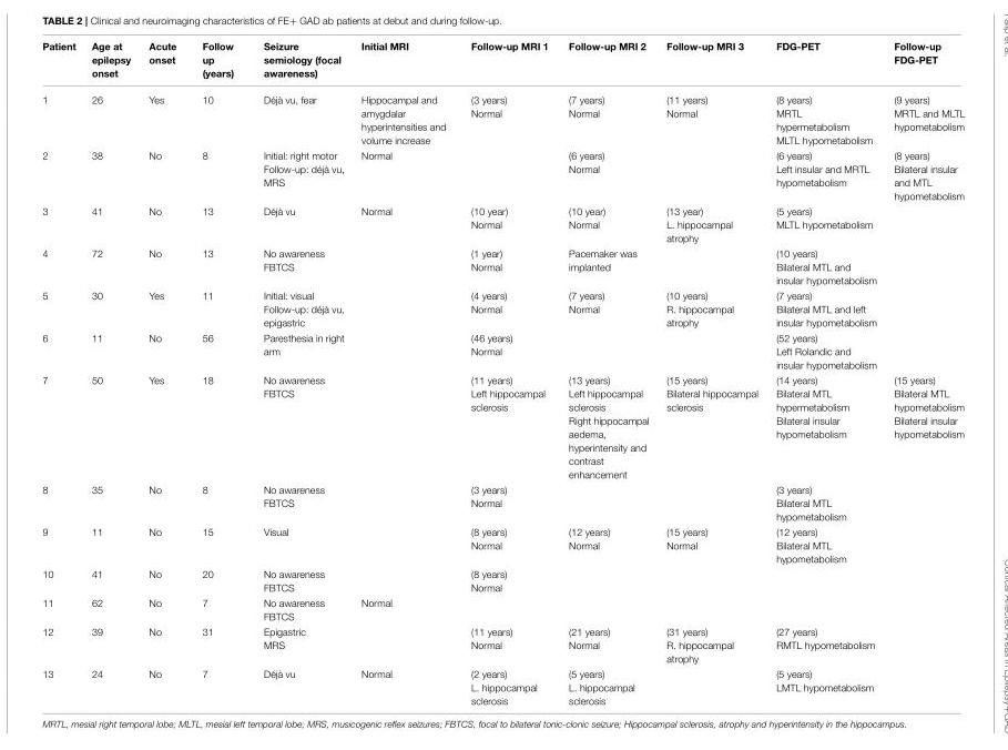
<table><thead><tr><td>Patient</td><td>Age at epilepsy onset</td><td>Acute onset</td><td>Follow up (years)</td><td>Seizure semiology (focal awareness)</td><td>Initial MRI</td><td>Follow-up MRI 1</td><td>Follow-up MRI 2</td><td>Follow-up MRI 3</td><td>FDG-PET</td><td>Follow-up FDG-PET</td></tr></thead><tbody><tr><td>1</td><td>26</td><td>Yes</td><td>10</td><td>Déjà vu, fear</td><td>Hippocampal and amygdalar hyperintensities and volume increase</td><td>(3 years) Normal</td><td>(7 years) Normal</td><td>(11 years) Normal</td><td>(8 years) MRTL hypermetabolism MLTL hypometabolism</td><td>(9 years) MRTL and MLTL hypometabolism</td></tr><tr><td>2</td><td>38</td><td>No</td><td>8</td><td>Initial: right motor Follow-up: déjà vu, MRS</td><td>Normal</td><td></td><td>(6 years) Normal</td><td></td><td>(6 years) Left insular and MRTL hypometabolism</td><td>(8 years) Bilateral insular and MTL hypometabolism</td></tr><tr><td>3</td><td>41</td><td>No</td><td>13</td><td>Déjà vu</td><td>Normal</td><td>(10 year) Normal</td><td>(10 year) Normal</td><td>(13 year) L. hippocampal atrophy</td><td>(5 years) MLTL hypometabolism</td><td></td></tr><tr><td>4</td><td>72</td><td>No</td><td>13</td><td>No awareness FBTCS</td><td></td><td>(1 year) Normal</td><td>Pacemaker was implanted</td><td></td><td>(10 years) Bilateral MTL and insular hypometabolism</td><td></td></tr><tr><td>5</td><td>30</td><td>Yes</td><td>11</td><td>Initial: visual Follow-up: déjà vu, epigastric</td><td></td><td>(4 years) Normal</td><td>(7 years) Normal</td><td>(10 years) R. hippocampal atrophy</td><td>(7 years) Bilateral MTL and left insular hypometabolism</td><td></td></tr><tr><td>6</td><td>11</td><td>No</td><td>56</td><td>Paresthesia in right arm</td><td></td><td>(46 years) Normal</td><td></td><td></td><td>(52 years) Left Rolandic and insular hypometabolism</td><td></td></tr><tr><td>7</td><td>50</td><td>Yes</td><td>18</td><td>No awareness FBTCS</td><td></td><td>(11 years) Left hippocampal sclerosis</td><td>(13 years) Left hippocampal sclerosis Right hippocampal aedema, hyperintensity and contrast enhancement</td><td>(15 years) Bilateral hippocampal sclerosis</td><td>(14 years) Bilateral MTL hypermetabolism Bilateral insular hypometabolism</td><td>(15 years) Bilateral MTL hypometabolism Bilateral insular hypometabolism</td></tr><tr><td>8</td><td>35</td><td>No</td><td>8</td><td>No awareness FBTCS</td><td></td><td>(3 years) Normal</td><td></td><td></td><td>(3 years) Bilateral MTL hypometabolism</td><td></td></tr><tr><td>9</td><td>11</td><td>No</td><td>15</td><td>Visual</td><td></td><td>(8 years) Normal</td><td>(12 years) Normal</td><td>(15 years) Normal</td><td>(12 years) Bilateral MTL hypometabolism</td><td></td></tr><tr><td>10</td><td>41</td><td>No</td><td>20</td><td>No awareness FBTCS</td><td></td><td>(8 years) Normal</td><td></td><td></td><td></td><td></td></tr><tr><td>11</td><td>62</td><td>No</td><td>7</td><td>No awareness FBTCS</td><td>Normal</td><td></td><td></td><td></td><td></td><td></td></tr><tr><td>12</td><td>39</td><td>No</td><td>31</td><td>Epigastric MRS</td><td></td><td>(11 years) Normal</td><td>(21 years) Normal</td><td>(31 years) R. hippocampal atrophy</td><td>(27 years) RMTL hypometabolism</td><td></td></tr><tr><td>13</td><td>24</td><td>No</td><td>7</td><td>Déjà vu</td><td>Normal</td><td>(2 years) L. hippocampal sclerosis</td><td>(5 years) L. hippocampal sclerosis</td><td></td><td>(5 years) LMTL hypometabolism</td><td></td></tr></tbody></table>